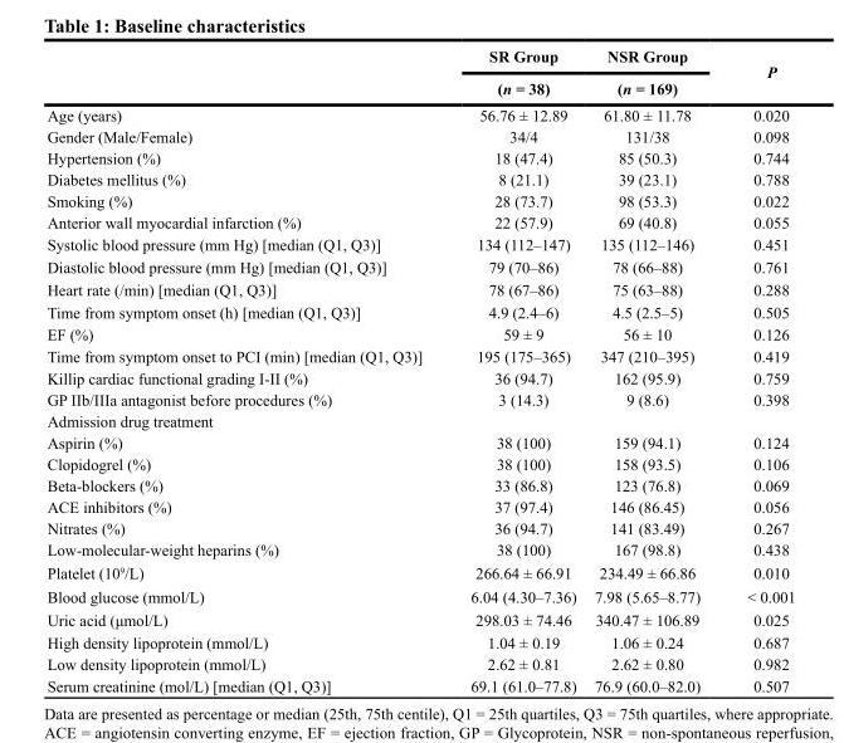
<table><thead><tr><td rowspan="2"></td><td rowspan="2">SR Group (n = 38)</td><td rowspan="2">NSR Group (n = 169)</td><td rowspan="2">P</td></tr><tr></tr></thead><tbody><tr><td>Age (years)</td><td>56.76 ± 12.89</td><td>61.80 ± 11.78</td><td>0.020</td></tr><tr><td>Gender (Male/Female)</td><td>34/4</td><td>131/38</td><td>0.098</td></tr><tr><td>Hypertension (%)</td><td>18 (47.4)</td><td>85 (50.3)</td><td>0.744</td></tr><tr><td>Diabetes mellitus (%)</td><td>8 (21.1)</td><td>39 (23.1)</td><td>0.788</td></tr><tr><td>Smoking (%)</td><td>28 (73.7)</td><td>98 (53.3)</td><td>0.022</td></tr><tr><td>Anterior wall myocardial infarction (%)</td><td>22 (57.9)</td><td>69 (40.8)</td><td>0.055</td></tr><tr><td>Systolic blood pressure (mm Hg) [median (Q1, Q3)]</td><td>134 (112–147)</td><td>135 (112–146)</td><td>0.451</td></tr><tr><td>Diastolic blood pressure (mm Hg) [median (Q1, Q3)]</td><td>79 (70–86)</td><td>78 (66–88)</td><td>0.761</td></tr><tr><td>Heart rate (/min) [median (Q1, Q3)]</td><td>78 (67–86)</td><td>75 (63–88)</td><td>0.288</td></tr><tr><td>Time from symptom onset (h) [median (Q1, Q3)]</td><td>4.9 (2.4–6)</td><td>4.5 (2.5–5)</td><td>0.505</td></tr><tr><td>EF (%)</td><td>59 ± 9</td><td>56 ± 10</td><td>0.126</td></tr><tr><td>Time from symptom onset to PCI (min) [median (Q1, Q3)]</td><td>195 (175–365)</td><td>347 (210–395)</td><td>0.419</td></tr><tr><td>Killip cardiac functional grading I-II (%)</td><td>36 (94.7)</td><td>162 (95.9)</td><td>0.759</td></tr><tr><td>GP IIb/IIIa antagonist before procedures (%)</td><td>3 (14.3)</td><td>9 (8.6)</td><td>0.398</td></tr><tr><td colspan="4">Admission drug treatment</td></tr><tr><td>Aspirin (%)</td><td>38 (100)</td><td>159 (94.1)</td><td>0.124</td></tr><tr><td>Clopidogrel (%)</td><td>38 (100)</td><td>158 (93.5)</td><td>0.106</td></tr><tr><td>Beta-blockers (%)</td><td>33 (86.8)</td><td>123 (76.8)</td><td>0.069</td></tr><tr><td>ACE inhibitors (%)</td><td>37 (97.4)</td><td>146 (86.45)</td><td>0.056</td></tr><tr><td>Nitrates (%)</td><td>36 (94.7)</td><td>141 (83.49)</td><td>0.267</td></tr><tr><td>Low-molecular-weight heparins (%)</td><td>38 (100)</td><td>167 (98.8)</td><td>0.438</td></tr><tr><td>Platelet (10<sup>9</sup>/L)</td><td>266.64 ± 66.91</td><td>234.49 ± 66.86</td><td>0.010</td></tr><tr><td>Blood glucose (mmol/L)</td><td>6.04 (4.30–7.36)</td><td>7.98 (5.65–8.77)</td><td>&lt; 0.001</td></tr><tr><td>Uric acid (μmol/L)</td><td>298.03 ± 74.46</td><td>340.47 ± 106.89</td><td>0.025</td></tr><tr><td>High density lipoprotein (mmol/L)</td><td>1.04 ± 0.19</td><td>1.06 ± 0.24</td><td>0.687</td></tr><tr><td>Low density lipoprotein (mmol/L)</td><td>2.62 ± 0.81</td><td>2.62 ± 0.80</td><td>0.982</td></tr><tr><td>Serum creatinine (mol/L) [median (Q1, Q3)]</td><td>69.1 (61.0–77.8)</td><td>76.9 (60.0–82.0)</td><td>0.507</td></tr></tbody></table>